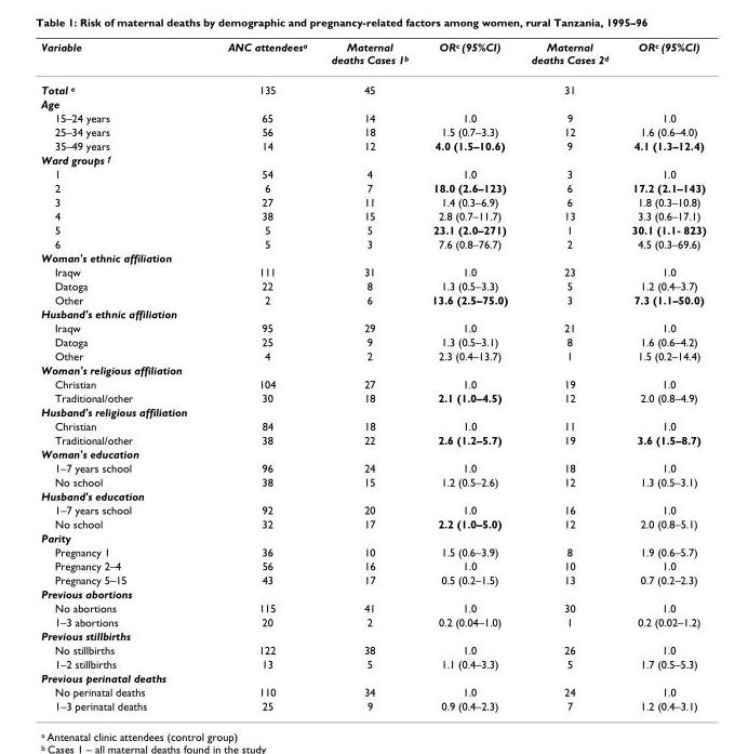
<table><thead><tr><td>Variable</td><td>ANC attendees<sup>a</sup></td><td>Maternal deaths Cases 1<sup>b</sup></td><td>OR<sup>c</sup> (95%CI)</td><td>Maternal deaths Cases 2<sup>d</sup></td><td>OR<sup>c</sup> (95%CI)</td></tr></thead><tbody><tr><td>Total <sup>e</sup></td><td>135</td><td>45</td><td></td><td>31</td><td></td></tr><tr><td colspan="6">Age</td></tr><tr><td>15–24 years</td><td>65</td><td>14</td><td>1.0</td><td>9</td><td>1.0</td></tr><tr><td>25–34 years</td><td>56</td><td>18</td><td>1.5 (0.7–3.3)</td><td>12</td><td>1.6 (0.6–4.0)</td></tr><tr><td>35–49 years</td><td>14</td><td>12</td><td>4.0 (1.5–10.6)</td><td>9</td><td>4.1 (1.3–12.4)</td></tr><tr><td colspan="6">Ward groups <sup>f</sup></td></tr><tr><td>1</td><td>54</td><td>4</td><td>1.0</td><td>3</td><td>1.0</td></tr><tr><td>2</td><td>6</td><td>7</td><td>18.0 (2.6–123)</td><td>6</td><td>17.2 (2.1–143)</td></tr><tr><td>3</td><td>27</td><td>11</td><td>1.4 (0.3–6.9)</td><td>6</td><td>1.8 (0.3–10.8)</td></tr><tr><td>4</td><td>38</td><td>15</td><td>2.8 (0.7–11.7)</td><td>13</td><td>3.3 (0.6–17.1)</td></tr><tr><td>5</td><td>5</td><td>5</td><td>23.1 (2.0–271)</td><td>1</td><td>30.1 (1.1- 823)</td></tr><tr><td>6</td><td>5</td><td>3</td><td>7.6 (0.8–76.7)</td><td>2</td><td>4.5 (0.3–69.6)</td></tr><tr><td colspan="6">Woman&#x27;s ethnic affiliation</td></tr><tr><td>Iraqw</td><td>111</td><td>31</td><td>1.0</td><td>23</td><td>1.0</td></tr><tr><td>Datoga</td><td>22</td><td>8</td><td>1.3 (0.5–3.3)</td><td>5</td><td>1.2 (0.4–3.7)</td></tr><tr><td>Other</td><td>2</td><td>6</td><td>13.6 (2.5–75.0)</td><td>3</td><td>7.3 (1.1–50.0)</td></tr><tr><td colspan="6">Husband&#x27;s ethnic affiliation</td></tr><tr><td>Iraqw</td><td>95</td><td>29</td><td>1.0</td><td>21</td><td>1.0</td></tr><tr><td>Datoga</td><td>25</td><td>9</td><td>1.3 (0.5–3.1)</td><td>8</td><td>1.6 (0.6–4.2)</td></tr><tr><td>Other</td><td>4</td><td>2</td><td>2.3 (0.4–13.7)</td><td>1</td><td>1.5 (0.2–14.4)</td></tr><tr><td colspan="6">Woman&#x27;s religious affiliation</td></tr><tr><td>Christian</td><td>104</td><td>27</td><td>1.0</td><td>19</td><td>1.0</td></tr><tr><td>Traditional/other</td><td>30</td><td>18</td><td>2.1 (1.0–4.5)</td><td>12</td><td>2.0 (0.8–4.9)</td></tr><tr><td colspan="6">Husband&#x27;s religious affiliation</td></tr><tr><td>Christian</td><td>84</td><td>18</td><td>1.0</td><td>11</td><td>1.0</td></tr><tr><td>Traditional/other</td><td>38</td><td>22</td><td>2.6 (1.2–5.7)</td><td>19</td><td>3.6 (1.5–8.7)</td></tr><tr><td colspan="6">Woman&#x27;s education</td></tr><tr><td>1–7 years school</td><td>96</td><td>24</td><td>1.0</td><td>18</td><td>1.0</td></tr><tr><td>No school</td><td>38</td><td>15</td><td>1.2 (0.5–2.6)</td><td>12</td><td>1.3 (0.5–3.1)</td></tr><tr><td colspan="6">Husband&#x27;s education</td></tr><tr><td>1–7 years school</td><td>92</td><td>20</td><td>1.0</td><td>16</td><td>1.0</td></tr><tr><td>No school</td><td>32</td><td>17</td><td>2.2 (1.0–5.0)</td><td>12</td><td>2.0 (0.8–5.1)</td></tr><tr><td colspan="6">Parity</td></tr><tr><td>Pregnancy 1</td><td>36</td><td>10</td><td>1.5 (0.6–3.9)</td><td>8</td><td>1.9 (0.6–5.7)</td></tr><tr><td>Pregnancy 2–4</td><td>56</td><td>16</td><td>1.0</td><td>10</td><td>1.0</td></tr><tr><td>Pregnancy 5–15</td><td>43</td><td>17</td><td>0.5 (0.2–1.5)</td><td>13</td><td>0.7 (0.2–2.3)</td></tr><tr><td colspan="6">Previous abortions</td></tr><tr><td>No abortions</td><td>115</td><td>41</td><td>1.0</td><td>30</td><td>1.0</td></tr><tr><td>1–3 abortions</td><td>20</td><td>2</td><td>0.2 (0.04–1.0)</td><td>1</td><td>0.2 (0.02–1.2)</td></tr><tr><td colspan="6">Previous stillbirths</td></tr><tr><td>No stillbirths</td><td>122</td><td>38</td><td>1.0</td><td>26</td><td>1.0</td></tr><tr><td>1–2 stillbirths</td><td>13</td><td>5</td><td>1.1 (0.4–3.3)</td><td>5</td><td>1.7 (0.5–5.3)</td></tr><tr><td colspan="6">Previous perinatal deaths</td></tr><tr><td>No perinatal deaths</td><td>110</td><td>34</td><td>1.0</td><td>24</td><td>1.0</td></tr><tr><td>1–3 perinatal deaths</td><td>25</td><td>9</td><td>0.9 (0.4–2.3)</td><td>7</td><td>1.2 (0.4–3.1)</td></tr></tbody></table>